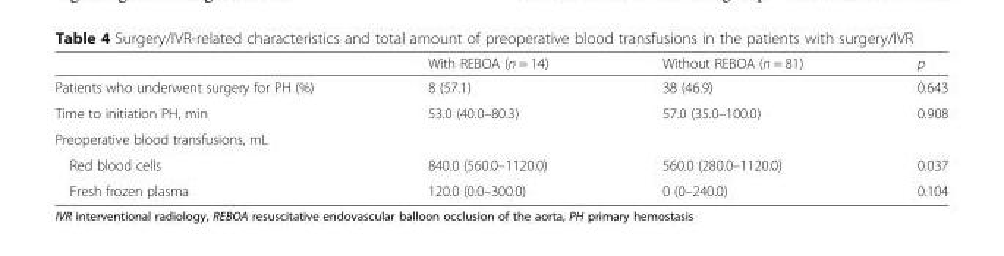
<table><thead><tr><td></td><td>With REBOA (n = 14)</td><td>Without REBOA (n = 81)</td><td>p</td></tr></thead><tbody><tr><td>Patients who underwent surgery for PH (%)</td><td>8 (57.1)</td><td>38 (46.9)</td><td>0.643</td></tr><tr><td>Time to initiation PH, min</td><td>53.0 (40.0–80.3)</td><td>57.0 (35.0–100.0)</td><td>0.908</td></tr><tr><td colspan="4">Preoperative blood transfusions, mL</td></tr><tr><td>Red blood cells</td><td>840.0 (560.0–1120.0)</td><td>560.0 (280.0–1120.0)</td><td>0.037</td></tr><tr><td>Fresh frozen plasma</td><td>120.0 (0.0–300.0)</td><td>0 (0–240.0)</td><td>0.104</td></tr></tbody></table>